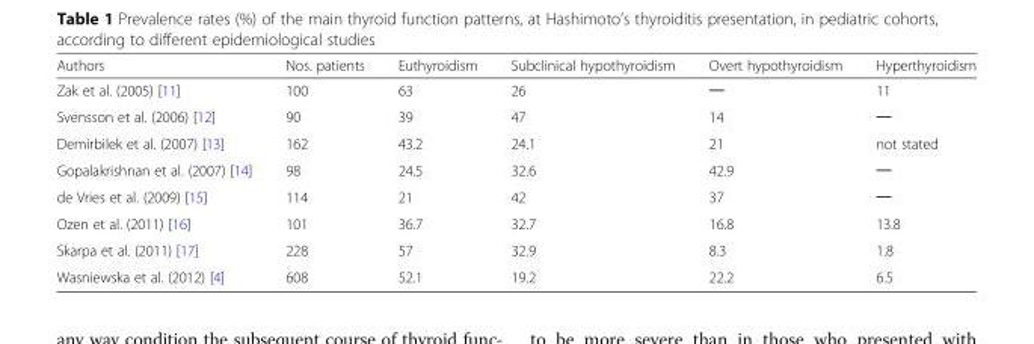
<table><thead><tr><td>Authors</td><td>Nos. patients</td><td>Euthyroidism</td><td>Subclinical hypothyroidism</td><td>Overt hypothyroidism</td><td>Hyperthyroidism</td></tr></thead><tbody><tr><td>Zak et al. (2005) [11]</td><td>100</td><td>63</td><td>26</td><td>─</td><td>11</td></tr><tr><td>Svensson et al. (2006) [12]</td><td>90</td><td>39</td><td>47</td><td>14</td><td>─</td></tr><tr><td>Demirbilek et al. (2007) [13]</td><td>162</td><td>43.2</td><td>24.1</td><td>21</td><td>not stated</td></tr><tr><td>Gopalakrishnan et al. (2007) [14]</td><td>98</td><td>24.5</td><td>32.6</td><td>42.9</td><td>─</td></tr><tr><td>de Vries et al. (2009) [15]</td><td>114</td><td>21</td><td>42</td><td>37</td><td>─</td></tr><tr><td>Ozen et al. (2011) [16]</td><td>101</td><td>36.7</td><td>32.7</td><td>16.8</td><td>13.8</td></tr><tr><td>Skarpa et al. (2011) [17]</td><td>228</td><td>57</td><td>32.9</td><td>8.3</td><td>1.8</td></tr><tr><td>Wasniewska et al. (2012) [4]</td><td>608</td><td>52.1</td><td>19.2</td><td>22.2</td><td>6.5</td></tr></tbody></table>